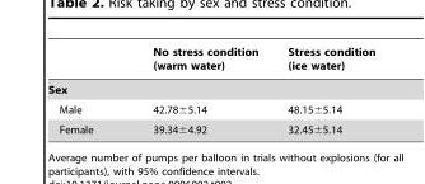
<table><thead><tr><td></td><td>No stress condition (warm water)</td><td>Stress condition (ice water)</td></tr></thead><tbody><tr><td colspan="3">Sex</td></tr><tr><td>Male</td><td>42.78±5.14</td><td>48.15±5.14</td></tr><tr><td>Female</td><td>39.34±4.92</td><td>32.45±5.14</td></tr></tbody></table>